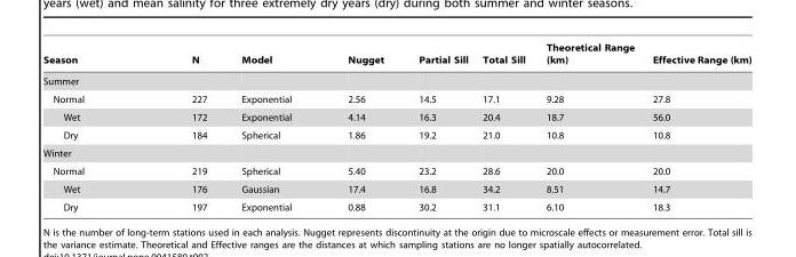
<table><thead><tr><td>Season</td><td>N</td><td>Model</td><td>Nugget</td><td>Partial Sill</td><td>Total Sill</td><td>Theoretical Range (km)</td><td>Effective Range (km)</td></tr></thead><tbody><tr><td colspan="8">Summer</td></tr><tr><td>Normal</td><td>227</td><td>Exponential</td><td>2.56</td><td>14.5</td><td>17.1</td><td>9.28</td><td>27.8</td></tr><tr><td>Wet</td><td>172</td><td>Exponential</td><td>4.14</td><td>16.3</td><td>20.4</td><td>18.7</td><td>56.0</td></tr><tr><td>Dry</td><td>184</td><td>Spherical</td><td>1.86</td><td>19.2</td><td>21.0</td><td>10.8</td><td>10.8</td></tr><tr><td colspan="8">Winter</td></tr><tr><td>Normal</td><td>219</td><td>Spherical</td><td>5.40</td><td>23.2</td><td>28.6</td><td>20.0</td><td>20.0</td></tr><tr><td>Wet</td><td>176</td><td>Gaussian</td><td>17.4</td><td>16.8</td><td>34.2</td><td>8.51</td><td>14.7</td></tr><tr><td>Dry</td><td>197</td><td>Exponential</td><td>0.88</td><td>30.2</td><td>31.1</td><td>6.10</td><td>18.3</td></tr></tbody></table>